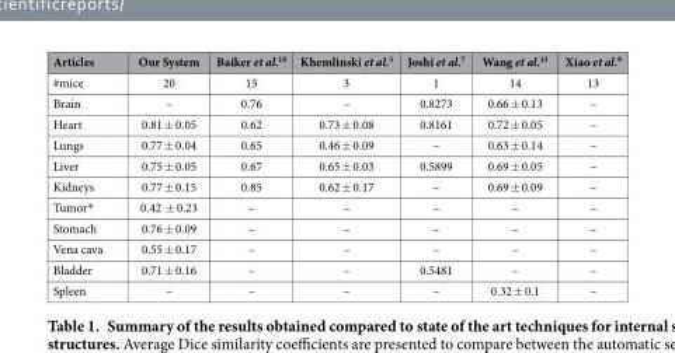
<table><thead><tr><td>Articles</td><td>Our System</td><td>Baiker et al.<sup>10</sup></td><td>Khemlinski et al.<sup>5</sup></td><td>Joshi et al.<sup>7</sup></td><td>Wang et al.<sup>15</sup></td><td>Xiao et al.<sup>9</sup></td></tr></thead><tbody><tr><td>#mice</td><td>20</td><td>15</td><td>3</td><td>1</td><td>14</td><td>13</td></tr><tr><td>Brain</td><td>–</td><td>0.76</td><td>–</td><td>0.8273</td><td>0.66 ± 0.13</td><td>–</td></tr><tr><td>Heart</td><td>0.81 ± 0.05</td><td>0.62</td><td>0.73 ± 0.08</td><td>0.8161</td><td>0.72 ± 0.05</td><td>–</td></tr><tr><td>Lungs</td><td>0.77 ± 0.04</td><td>0.65</td><td>0.46 ± 0.09</td><td>–</td><td>0.63 ± 0.14</td><td>–</td></tr><tr><td>Liver</td><td>0.75 ± 0.05</td><td>0.67</td><td>0.65 ± 0.03</td><td>0.5899</td><td>0.69 ± 0.05</td><td>–</td></tr><tr><td>Kidneys</td><td>0.77 ± 0.15</td><td>0.85</td><td>0.62 ± 0.17</td><td>–</td><td>0.69 ± 0.09</td><td>–</td></tr><tr><td>Tumor*</td><td>0.42 ± 0.23</td><td>–</td><td>–</td><td>–</td><td>–</td><td>–</td></tr><tr><td>Stomach</td><td>0.76 ± 0.09</td><td>–</td><td>–</td><td>–</td><td>–</td><td>–</td></tr><tr><td>Vena cava</td><td>0.55 ± 0.17</td><td>–</td><td>–</td><td>–</td><td>–</td><td>–</td></tr><tr><td>Bladder</td><td>0.71 ± 0.16</td><td>–</td><td>–</td><td>0.5481</td><td>–</td><td>–</td></tr><tr><td>Spleen</td><td>–</td><td>–</td><td>–</td><td>–</td><td>0.32 ± 0.1</td><td>–</td></tr></tbody></table>